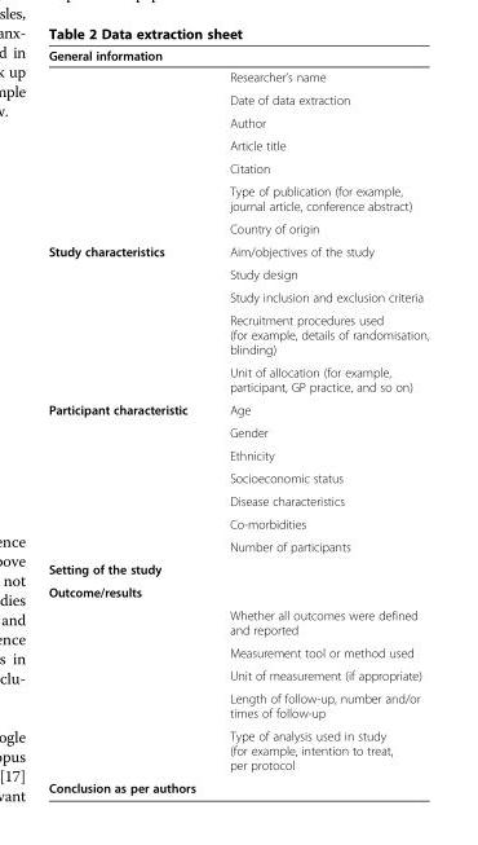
<table><thead><tr><td>General information</td><td></td></tr></thead><tbody><tr><td rowspan="7"></td><td>Researcher’s name</td></tr><tr><td>Date of data extraction</td></tr><tr><td>Author</td></tr><tr><td>Article title</td></tr><tr><td>Citation</td></tr><tr><td>Type of publication (for example, journal article, conference abstract)</td></tr><tr><td>Country of origin</td></tr><tr><td rowspan="5">Study characteristics</td><td>Aim/objectives of the study</td></tr><tr><td>Study design</td></tr><tr><td>Study inclusion and exclusion criteria</td></tr><tr><td>Recruitment procedures used (for example, details of randomisation, blinding)</td></tr><tr><td>Unit of allocation (for example, participant, GP practice, and so on)</td></tr><tr><td rowspan="7">Participant characteristic</td><td>Age</td></tr><tr><td>Gender</td></tr><tr><td>Ethnicity</td></tr><tr><td>Socioeconomic status</td></tr><tr><td>Disease characteristics</td></tr><tr><td>Co-morbidities</td></tr><tr><td>Number of participants</td></tr><tr><td colspan="2">Setting of the study</td></tr><tr><td colspan="2">Outcome/results</td></tr><tr><td rowspan="5"></td><td>Whether all outcomes were defined and reported</td></tr><tr><td>Measurement tool or method used</td></tr><tr><td>Unit of measurement (if appropriate)</td></tr><tr><td>Length of follow-up, number and/or times of follow-up</td></tr><tr><td>Type of analysis used in study (for example, intention to treat, per protocol</td></tr><tr><td>Conclusion as per authors</td><td></td></tr></tbody></table>